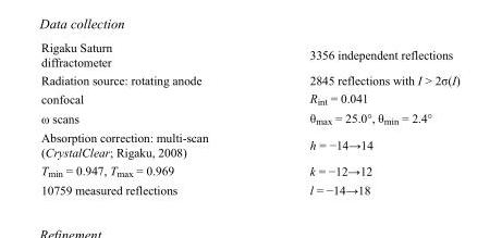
<table><tbody><tr><td>Rigaku Saturn diffractometer</td><td>3356 independent reflections</td></tr><tr><td>Radiation source: rotating anode</td><td>2845 reflections with I &gt; 2σ(I)</td></tr><tr><td>confocal</td><td>R<sub>int</sub> = 0.041</td></tr><tr><td>ω scans</td><td>θ<sub>max</sub> = 25.0°, θ<sub>min</sub> = 2.4°</td></tr><tr><td>Absorption correction: multi-scan (CrystalClear; Rigaku, 2008)</td><td>h = −14→14</td></tr><tr><td>T<sub>min</sub> = 0.947, T<sub>max</sub> = 0.969</td><td>k = −12→12</td></tr><tr><td>10759 measured reflections</td><td>l = −14→18</td></tr></tbody></table>